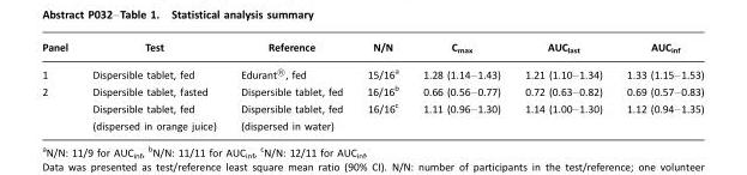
<table><thead><tr><td>Panel</td><td>Test</td><td>Reference</td><td>N/N</td><td>Cmax</td><td>AUClast</td><td>AUCinf</td></tr></thead><tbody><tr><td>1</td><td>Dispersible tablet, fed</td><td>Edurant†, fed</td><td>15/16a</td><td>1.28 (1.14–1.43)</td><td>1.21 (1.10–1.34)</td><td>1.33 (1.15–1.53)</td></tr><tr><td rowspan="2">2</td><td>Dispersible tablet, fasted</td><td>Dispersible tablet, fed</td><td>16/16b</td><td>0.66 (0.56–0.77)</td><td>0.72 (0.63–0.82)</td><td>0.69 (0.57–0.83)</td></tr><tr><td>Dispersible tablet, fed (dispersed in orange juice)</td><td>Dispersible tablet, fed (dispersed in water)</td><td>16/16c</td><td>1.11 (0.96–1.30)</td><td>1.14 (1.00–1.30)</td><td>1.12 (0.94–1.35)</td></tr></tbody></table>